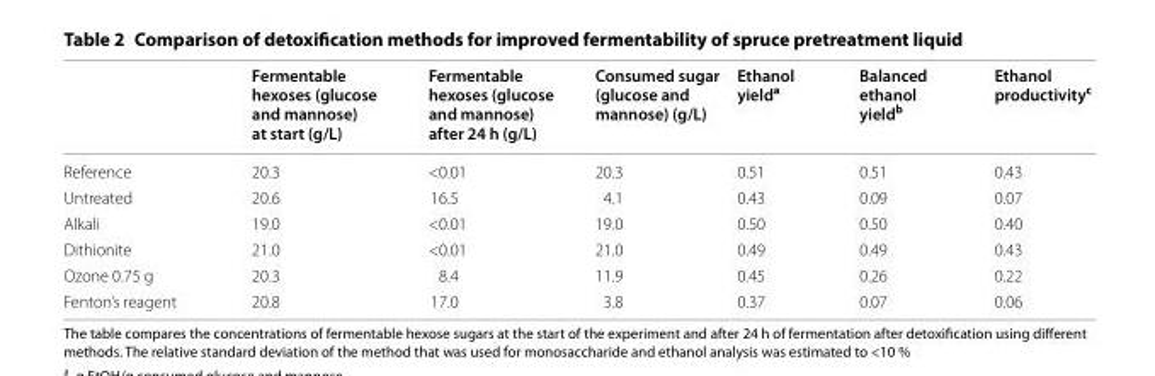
<table><thead><tr><td></td><td>Fermentable hexoses (glucose and mannose) at start (g/L)</td><td>Fermentable hexoses (glucose and mannose) after 24 h (g/L)</td><td>Consumed sugar (glucose and mannose) (g/L)</td><td>Ethanol yield<sup>a</sup></td><td>Balanced ethanol yield<sup>b</sup></td><td>Ethanol productivity<sup>c</sup></td></tr></thead><tbody><tr><td>Reference</td><td>20.3</td><td>&lt;0.01</td><td>20.3</td><td>0.51</td><td>0.51</td><td>0.43</td></tr><tr><td>Untreated</td><td>20.6</td><td>16.5</td><td>4.1</td><td>0.43</td><td>0.09</td><td>0.07</td></tr><tr><td>Alkali</td><td>19.0</td><td>&lt;0.01</td><td>19.0</td><td>0.50</td><td>0.50</td><td>0.40</td></tr><tr><td>Dithionite</td><td>21.0</td><td>&lt;0.01</td><td>21.0</td><td>0.49</td><td>0.49</td><td>0.43</td></tr><tr><td>Ozone 0.75 g</td><td>20.3</td><td>8.4</td><td>11.9</td><td>0.45</td><td>0.26</td><td>0.22</td></tr><tr><td>Fenton’s reagent</td><td>20.8</td><td>17.0</td><td>3.8</td><td>0.37</td><td>0.07</td><td>0.06</td></tr></tbody></table>